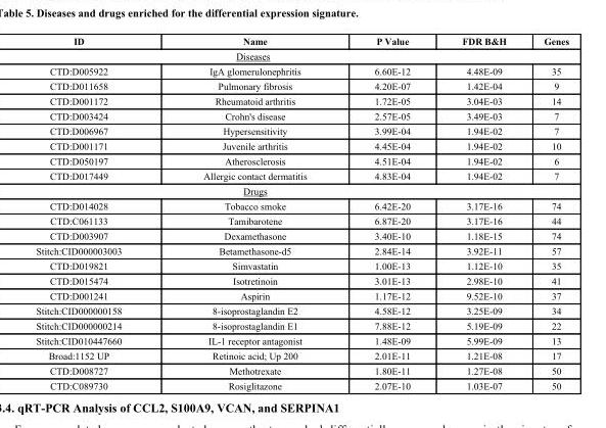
<table><thead><tr><td>ID</td><td>Name</td><td>P Value</td><td>FDR B&amp;H</td><td>Genes</td></tr></thead><tbody><tr><td colspan="5">Diseases</td></tr><tr><td>CTD:D005922</td><td>IgA glomerulonephritis</td><td>6.60E-12</td><td>4.48E-09</td><td>35</td></tr><tr><td>CTD:D011658</td><td>Pulmonary fibrosis</td><td>4.20E-07</td><td>1.42E-04</td><td>9</td></tr><tr><td>CTD:D001172</td><td>Rheumatoid arthritis</td><td>1.72E-05</td><td>3.04E-03</td><td>14</td></tr><tr><td>CTD:D003424</td><td>Crohn&#x27;s disease</td><td>2.57E-05</td><td>3.49E-03</td><td>7</td></tr><tr><td>CTD:D006967</td><td>Hypersensitivity</td><td>3.99E-04</td><td>1.94E-02</td><td>7</td></tr><tr><td>CTD:D001171</td><td>Juvenile arthritis</td><td>4.45E-04</td><td>1.94E-02</td><td>10</td></tr><tr><td>CTD:D050197</td><td>Atherosclerosis</td><td>4.51E-04</td><td>1.94E-02</td><td>6</td></tr><tr><td>CTD:D017449</td><td>Allergic contact dermatitis</td><td>4.83E-04</td><td>1.94E-02</td><td>7</td></tr><tr><td colspan="5">Drugs</td></tr><tr><td>CTD:D014028</td><td>Tobacco smoke</td><td>6.42E-20</td><td>3.17E-16</td><td>74</td></tr><tr><td>CTD:C061133</td><td>Tamibarotene</td><td>6.87E-20</td><td>3.17E-16</td><td>44</td></tr><tr><td>CTD:D003907</td><td>Dexamethasone</td><td>3.40E-10</td><td>1.18E-15</td><td>74</td></tr><tr><td>Stitch:CID000003003</td><td>Betamethasone-d5</td><td>2.84E-14</td><td>3.92E-11</td><td>57</td></tr><tr><td>CTD:D019821</td><td>Simvastatin</td><td>1.00E-13</td><td>1.12E-10</td><td>35</td></tr><tr><td>CTD:D015474</td><td>Isotretinoin</td><td>3.01E-13</td><td>2.98E-10</td><td>41</td></tr><tr><td>CTD:D001241</td><td>Aspirin</td><td>1.17E-12</td><td>9.52E-10</td><td>37</td></tr><tr><td>Stitch:CID000000158</td><td>8-isoprostaglandin E2</td><td>4.58E-12</td><td>3.25E-09</td><td>34</td></tr><tr><td>Stitch:CID000000214</td><td>8-isoprostaglandin E1</td><td>7.88E-12</td><td>5.19E-09</td><td>22</td></tr><tr><td>Stitch:CID010447660</td><td>IL-1 receptor antagonist</td><td>1.48E-09</td><td>5.99E-09</td><td>13</td></tr><tr><td>Broad:1152 UP</td><td>Retinoic acid; Up 200</td><td>2.01E-11</td><td>1.21E-08</td><td>17</td></tr><tr><td>CTD:D008727</td><td>Methotrexate</td><td>1.80E-11</td><td>1.27E-08</td><td>50</td></tr><tr><td>CTD:C089730</td><td>Rosiglitazone</td><td>2.07E-10</td><td>1.03E-07</td><td>50</td></tr></tbody></table>